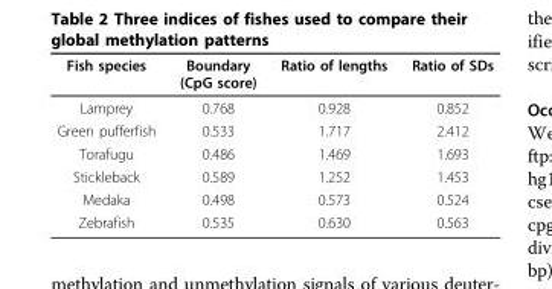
<table><thead><tr><td>Fish species</td><td>Boundary (CpG score)</td><td>Ratio of lengths</td><td>Ratio of SDs</td></tr></thead><tbody><tr><td>Lamprey</td><td>0.768</td><td>0.928</td><td>0.852</td></tr><tr><td>Green pufferfish</td><td>0.533</td><td>1.717</td><td>2.412</td></tr><tr><td>Torafugu</td><td>0.486</td><td>1.469</td><td>1.693</td></tr><tr><td>Stickleback</td><td>0.589</td><td>1.252</td><td>1.453</td></tr><tr><td>Medaka</td><td>0.498</td><td>0.573</td><td>0.524</td></tr><tr><td>Zebrafish</td><td>0.535</td><td>0.630</td><td>0.563</td></tr></tbody></table>